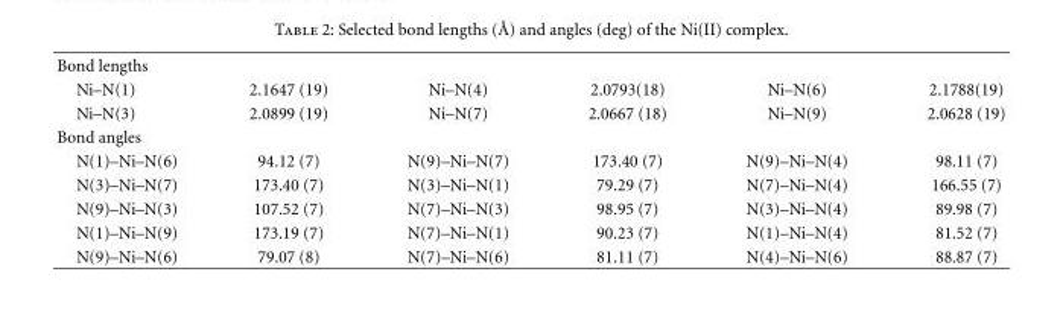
<table><tbody><tr><td colspan="6">Bond lengths</td></tr><tr><td>Ni–N(1)</td><td>2.1647 (19)</td><td>Ni–N(4)</td><td>2.0793(18)</td><td>Ni–N(6)</td><td>2.1788(19)</td></tr><tr><td>Ni–N(3)</td><td>2.0899 (19)</td><td>Ni–N(7)</td><td>2.0667 (18)</td><td>Ni–N(9)</td><td>2.0628 (19)</td></tr><tr><td colspan="6">Bond angles</td></tr><tr><td>N(1)–Ni–N(6)</td><td>94.12 (7)</td><td>N(9)–Ni–N(7)</td><td>173.40 (7)</td><td>N(9)–Ni–N(4)</td><td>98.11 (7)</td></tr><tr><td>N(3)–Ni–N(7)</td><td>173.40 (7)</td><td>N(3)–Ni–N(1)</td><td>79.29 (7)</td><td>N(7)–Ni–N(4)</td><td>166.55 (7)</td></tr><tr><td>N(9)–Ni–N(3)</td><td>107.52 (7)</td><td>N(7)–Ni–N(3)</td><td>98.95 (7)</td><td>N(3)–Ni–N(4)</td><td>89.98 (7)</td></tr><tr><td>N(1)–Ni–N(9)</td><td>173.19 (7)</td><td>N(7)–Ni–N(1)</td><td>90.23 (7)</td><td>N(1)–Ni–N(4)</td><td>81.52 (7)</td></tr><tr><td>N(9)–Ni–N(6)</td><td>79.07 (8)</td><td>N(7)–Ni–N(6)</td><td>81.11 (7)</td><td>N(4)–Ni–N(6)</td><td>88.87 (7)</td></tr></tbody></table>